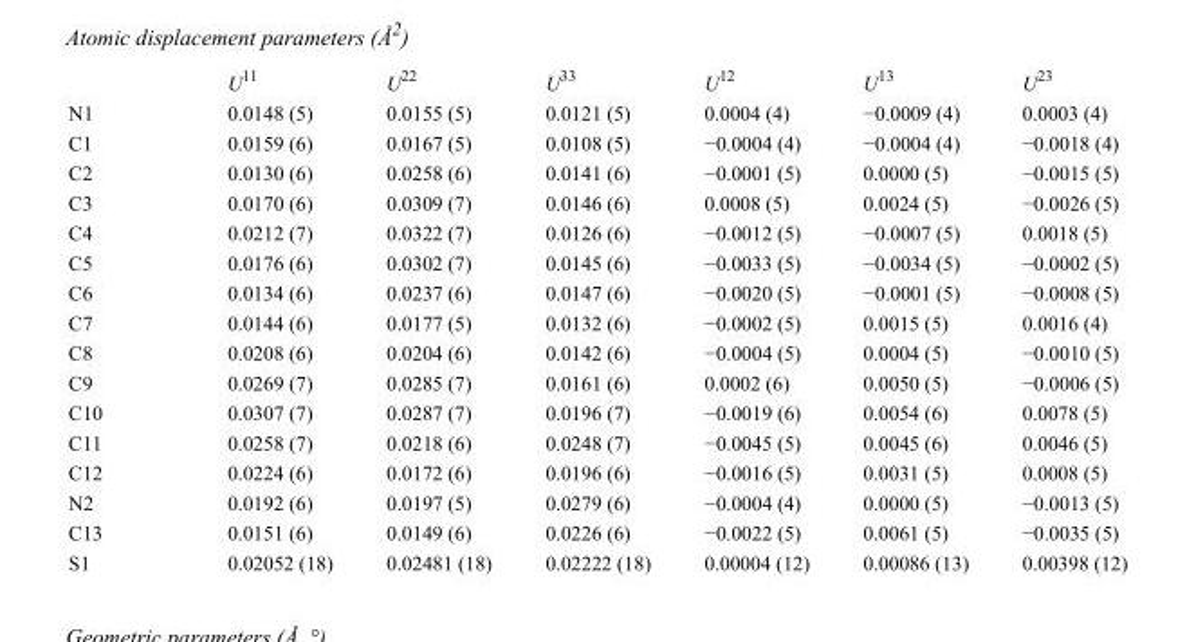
<table><thead><tr><td></td><td>U<sup>11</sup></td><td>U<sup>22</sup></td><td>U<sup>33</sup></td><td>U<sup>12</sup></td><td>U<sup>13</sup></td><td>U<sup>23</sup></td></tr></thead><tbody><tr><td>N1</td><td>0.0148 (5)</td><td>0.0155 (5)</td><td>0.0121 (5)</td><td>0.0004 (4)</td><td>−0.0009 (4)</td><td>0.0003 (4)</td></tr><tr><td>C1</td><td>0.0159 (6)</td><td>0.0167 (5)</td><td>0.0108 (5)</td><td>−0.0004 (4)</td><td>−0.0004 (4)</td><td>−0.0018 (4)</td></tr><tr><td>C2</td><td>0.0130 (6)</td><td>0.0258 (6)</td><td>0.0141 (6)</td><td>−0.0001 (5)</td><td>0.0000 (5)</td><td>−0.0015 (5)</td></tr><tr><td>C3</td><td>0.0170 (6)</td><td>0.0309 (7)</td><td>0.0146 (6)</td><td>0.0008 (5)</td><td>0.0024 (5)</td><td>−0.0026 (5)</td></tr><tr><td>C4</td><td>0.0212 (7)</td><td>0.0322 (7)</td><td>0.0126 (6)</td><td>−0.0012 (5)</td><td>−0.0007 (5)</td><td>0.0018 (5)</td></tr><tr><td>C5</td><td>0.0176 (6)</td><td>0.0302 (7)</td><td>0.0145 (6)</td><td>−0.0033 (5)</td><td>−0.0034 (5)</td><td>−0.0002 (5)</td></tr><tr><td>C6</td><td>0.0134 (6)</td><td>0.0237 (6)</td><td>0.0147 (6)</td><td>−0.0020 (5)</td><td>−0.0001 (5)</td><td>−0.0008 (5)</td></tr><tr><td>C7</td><td>0.0144 (6)</td><td>0.0177 (5)</td><td>0.0132 (6)</td><td>−0.0002 (5)</td><td>0.0015 (5)</td><td>0.0016 (4)</td></tr><tr><td>C8</td><td>0.0208 (6)</td><td>0.0204 (6)</td><td>0.0142 (6)</td><td>−0.0004 (5)</td><td>0.0004 (5)</td><td>−0.0010 (5)</td></tr><tr><td>C9</td><td>0.0269 (7)</td><td>0.0285 (7)</td><td>0.0161 (6)</td><td>0.0002 (6)</td><td>0.0050 (5)</td><td>−0.0006 (5)</td></tr><tr><td>C10</td><td>0.0307 (7)</td><td>0.0287 (7)</td><td>0.0196 (7)</td><td>−0.0019 (6)</td><td>0.0054 (6)</td><td>0.0078 (5)</td></tr><tr><td>C11</td><td>0.0258 (7)</td><td>0.0218 (6)</td><td>0.0248 (7)</td><td>−0.0045 (5)</td><td>0.0045 (6)</td><td>0.0046 (5)</td></tr><tr><td>C12</td><td>0.0224 (6)</td><td>0.0172 (6)</td><td>0.0196 (6)</td><td>−0.0016 (5)</td><td>0.0031 (5)</td><td>0.0008 (5)</td></tr><tr><td>N2</td><td>0.0192 (6)</td><td>0.0197 (5)</td><td>0.0279 (6)</td><td>−0.0004 (4)</td><td>0.0000 (5)</td><td>−0.0013 (5)</td></tr><tr><td>C13</td><td>0.0151 (6)</td><td>0.0149 (6)</td><td>0.0226 (6)</td><td>−0.0022 (5)</td><td>0.0061 (5)</td><td>−0.0035 (5)</td></tr><tr><td>S1</td><td>0.02052 (18)</td><td>0.02481 (18)</td><td>0.02222 (18)</td><td>0.00004 (12)</td><td>0.00086 (13)</td><td>0.00398 (12)</td></tr></tbody></table>